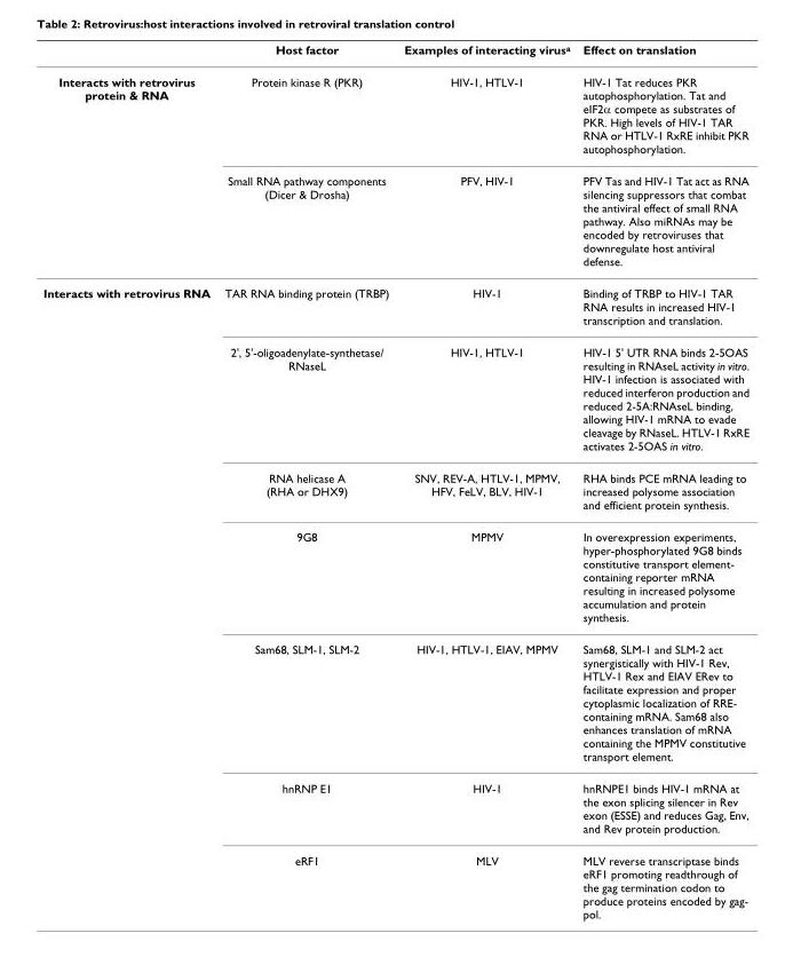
<table><thead><tr><td></td><td>Host factor</td><td>Examples of interacting virus<sup>a</sup></td><td>Effect on translation</td></tr></thead><tbody><tr><td rowspan="2">Interacts with retrovirus protein &amp; RNA</td><td>Protein kinase R (PKR)</td><td>HIV-1, HTLV-1</td><td>HIV-1 Tat reduces PKR autophosphorylation. Tat and eIF2α compete as substrates of PKR. High levels of HIV-1 TAR RNA or HTLV-1 RxRE inhibit PKR autophosphorylation.</td></tr><tr><td>Small RNA pathway components (Dicer &amp; Drosha)</td><td>PFV, HIV-1</td><td>PFV Tas and HIV-1 Tat act as RNA silencing suppressors that combat the antiviral effect of small RNA pathway. Also miRNAs may be encoded by retroviruses that downregulate host antiviral defense.</td></tr><tr><td rowspan="7">Interacts with retrovirus RNA</td><td>TAR RNA binding protein (TRBP)</td><td>HIV-1</td><td>Binding of TRBP to HIV-1 TAR RNA results in increased HIV-1 transcription and translation.</td></tr><tr><td>2&#x27;, 5&#x27;-oligoadenylate-synthetase/ RNaseL</td><td>HIV-1, HTLV-1</td><td>HIV-1 5&#x27; UTR RNA binds 2-5OAS resulting in RNAseL activity in vitro. HIV-1 infection is associated with reduced interferon production and reduced 2-5A:RNAseL binding, allowing HIV-1 mRNA to evade cleavage by RNaseL. HTLV-1 RxRE activates 2-5OAS in vitro.</td></tr><tr><td>RNA helicase A (RHA or DHX9)</td><td>SNV, REV-A, HTLV-1, MPMV, HFV, FeLV, BLV, HIV-1</td><td>RHA binds PCE mRNA leading to increased polysome association and efficient protein synthesis.</td></tr><tr><td>9G8</td><td>MPMV</td><td>In overexpression experiments, hyper-phosphorylated 9G8 binds constitutive transport element- containing reporter mRNA resulting in increased polysome accumulation and protein synthesis.</td></tr><tr><td>Sam68, SLM-1, SLM-2</td><td>HIV-1, HTLV-1, EIAV, MPMV</td><td>Sam68, SLM-1 and SLM-2 act synergistically with HIV-1 Rev, HTLV-1 Rex and EIAV ERev to facilitate expression and proper cytoplasmic localization of RRE- containing mRNA. Sam68 also enhances translation of mRNA containing the MPMV constitutive transport element.</td></tr><tr><td>hnRNP E1</td><td>HIV-1</td><td>hnRNPE1 binds HIV-1 mRNA at the exon splicing silencer in Rev exon (ESSE) and reduces Gag, Env, and Rev protein production.</td></tr><tr><td>eRF1</td><td>MLV</td><td>MLV reverse transcriptase binds eRF1 promoting readthrough of the gag termination codon to produce proteins encoded by gag- pol.</td></tr></tbody></table>